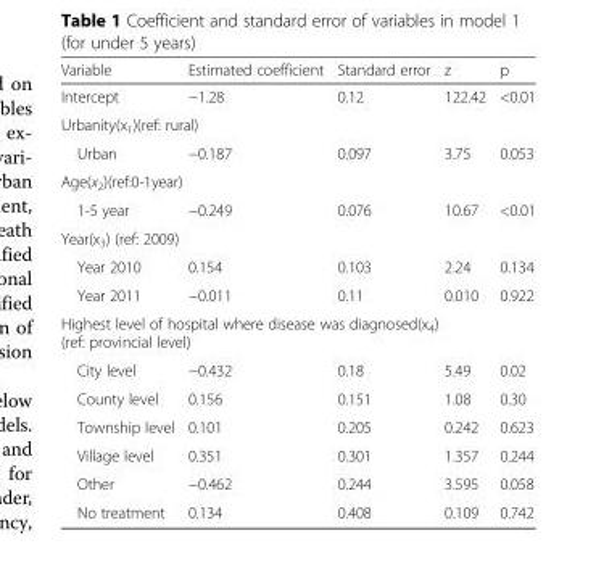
<table><thead><tr><td>Variable</td><td>Estimated coefficient</td><td>Standard error</td><td>z</td><td>p</td></tr></thead><tbody><tr><td>Intercept</td><td>−1.28</td><td>0.12</td><td>122.42</td><td>&lt;0.01</td></tr><tr><td colspan="5">Urbanity(x<sub>1</sub>)(ref: rural)</td></tr><tr><td>Urban</td><td>−0.187</td><td>0.097</td><td>3.75</td><td>0.053</td></tr><tr><td colspan="5">Age(x<sub>2</sub>)(ref:0-1year)</td></tr><tr><td>1-5 year</td><td>−0.249</td><td>0.076</td><td>10.67</td><td>&lt;0.01</td></tr><tr><td colspan="5">Year(x<sub>3</sub>) (ref: 2009)</td></tr><tr><td>Year 2010</td><td>0.154</td><td>0.103</td><td>2.24</td><td>0.134</td></tr><tr><td>Year 2011</td><td>−0.011</td><td>0.11</td><td>0.010</td><td>0.922</td></tr><tr><td colspan="5">Highest level of hospital where disease was diagnosed(x<sub>4</sub>) (ref: provincial level)</td></tr><tr><td>City level</td><td>−0.432</td><td>0.18</td><td>5.49</td><td>0.02</td></tr><tr><td>County level</td><td>0.156</td><td>0.151</td><td>1.08</td><td>0.30</td></tr><tr><td>Township level</td><td>0.101</td><td>0.205</td><td>0.242</td><td>0.623</td></tr><tr><td>Village level</td><td>0.351</td><td>0.301</td><td>1.357</td><td>0.244</td></tr><tr><td>Other</td><td>−0.462</td><td>0.244</td><td>3.595</td><td>0.058</td></tr><tr><td>No treatment</td><td>0.134</td><td>0.408</td><td>0.109</td><td>0.742</td></tr></tbody></table>